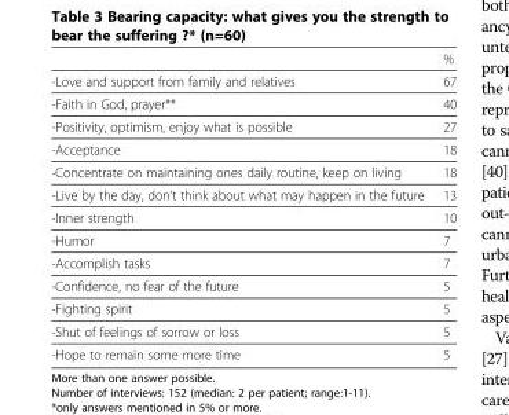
<table><thead><tr><td></td><td>%</td></tr></thead><tbody><tr><td>-Love and support from family and relatives</td><td>67</td></tr><tr><td>-Faith in God, prayer**</td><td>40</td></tr><tr><td>-Positivity, optimism, enjoy what is possible</td><td>27</td></tr><tr><td>-Acceptance</td><td>18</td></tr><tr><td>-Concentrate on maintaining ones daily routine, keep on living</td><td>18</td></tr><tr><td>-Live by the day, don’t think about what may happen in the future</td><td>13</td></tr><tr><td>-Inner strength</td><td>10</td></tr><tr><td>-Humor</td><td>7</td></tr><tr><td>-Accomplish tasks</td><td>7</td></tr><tr><td>-Confidence, no fear of the future</td><td>5</td></tr><tr><td>-Fighting spirit</td><td>5</td></tr><tr><td>-Shut of feelings of sorrow or loss</td><td>5</td></tr><tr><td>-Hope to remain some more time</td><td>5</td></tr></tbody></table>